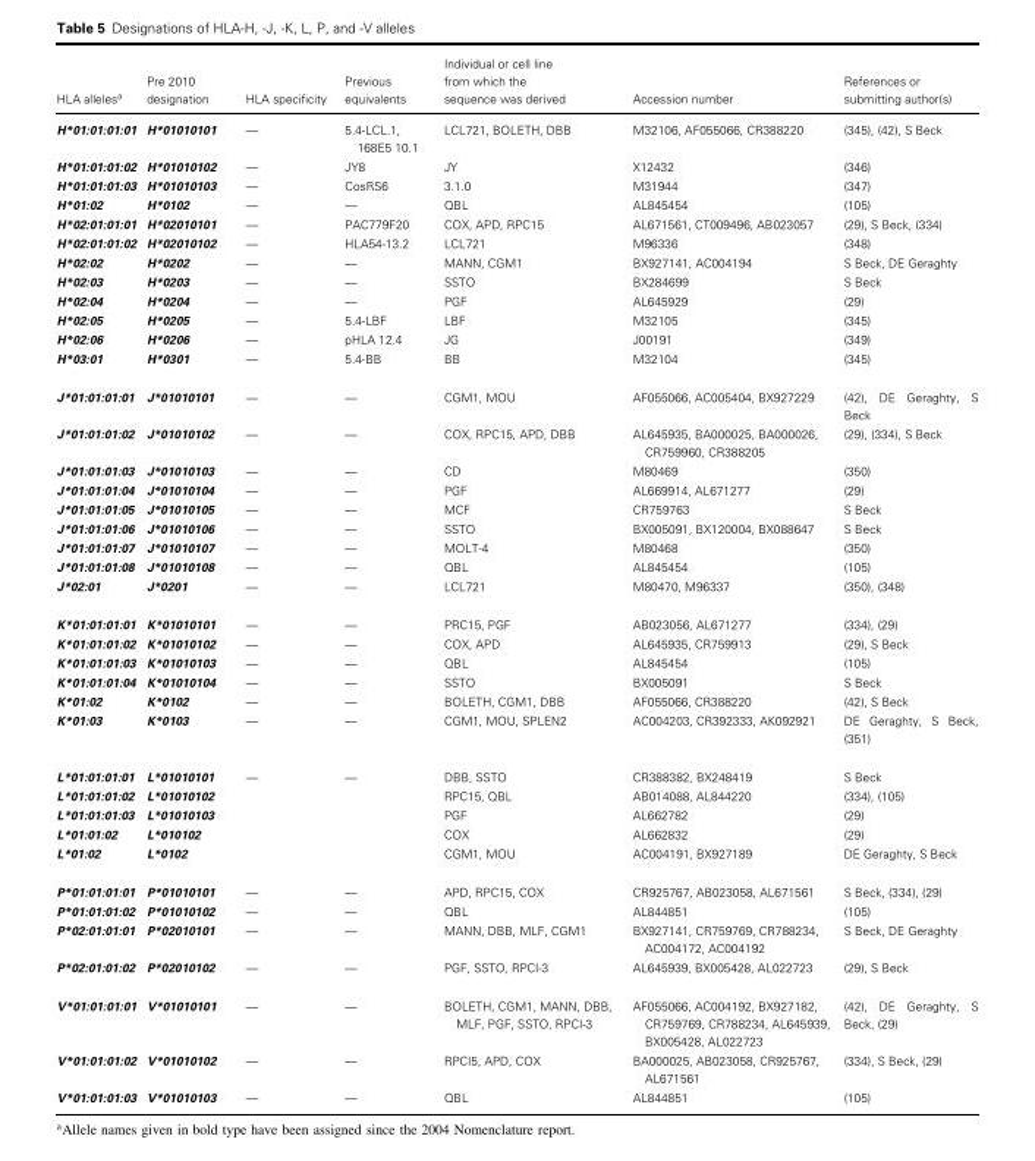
<table><thead><tr><td>HLA allelesa</td><td>Pre 2010 designation</td><td>HLA specificity</td><td>Previous equivalents</td><td>Individual or cell line from which the sequence was derived</td><td>Accession number</td><td>References or submitting author(s)</td></tr></thead><tbody><tr><td>H*01:01:01:01</td><td>H*01010101</td><td>—</td><td>5.4-LCL.1, 168E5 10.1</td><td>LCL721, BOLETH, DBB</td><td>M32106, AF055066, CR388220</td><td>(345), (42), S Beck</td></tr><tr><td>H*01:01:01:02</td><td>H*01010102</td><td>—</td><td>JY8</td><td>JY</td><td>X12432</td><td>(346)</td></tr><tr><td>H*01:01:01:03</td><td>H*01010103</td><td>—</td><td>CosRS6</td><td>3.1.0</td><td>M31944</td><td>(347)</td></tr><tr><td>H*01:02</td><td>H*0102</td><td>—</td><td>—</td><td>QBL</td><td>AL845454</td><td>(105)</td></tr><tr><td>H*02:01:01:01</td><td>H*02010101</td><td>—</td><td>PAC779F20</td><td>COX, APD, RPC15</td><td>AL671561, CT009496, AB023057</td><td>(29), S Beck, (334)</td></tr><tr><td>H*02:01:01:02</td><td>H*02010102</td><td>—</td><td>HLA54-13.2</td><td>LCL721</td><td>M96336</td><td>(348)</td></tr><tr><td>H*02:02</td><td>H*0202</td><td>—</td><td>—</td><td>MANN, CGM1</td><td>BX927141, AC004194</td><td>S Beck, DE Geraghty</td></tr><tr><td>H*02:03</td><td>H*0203</td><td>—</td><td>—</td><td>SSTO</td><td>BX284699</td><td>S Beck</td></tr><tr><td>H*02:04</td><td>H*0204</td><td>—</td><td>—</td><td>PGF</td><td>AL645929</td><td>(29)</td></tr><tr><td>H*02:05</td><td>H*0205</td><td>—</td><td>5.4-LBF</td><td>LBF</td><td>M32105</td><td>(345)</td></tr><tr><td>H*02:06</td><td>H*0206</td><td>—</td><td>pHLA 12.4</td><td>JG</td><td>J00191</td><td>(349)</td></tr><tr><td>H*03:01</td><td>H*0301</td><td>—</td><td>5.4-BB</td><td>BB</td><td>M32104</td><td>(345)</td></tr><tr><td>J*01:01:01:01</td><td>J*01010101</td><td>—</td><td>—</td><td>CGM1, MOU</td><td>AF055066, AC005404, BX927229</td><td>(42), DE Geraghty, S Beck</td></tr><tr><td>J*01:01:01:02</td><td>J*01010102</td><td>—</td><td>—</td><td>COX, RPC15, APD, DBB</td><td>AL645935, BA000025, BA000026, CR759960, CR388205</td><td>(29), (334), S Beck</td></tr><tr><td>J*01:01:01:03</td><td>J*01010103</td><td>—</td><td>—</td><td>CD</td><td>M80469</td><td>(350)</td></tr><tr><td>J*01:01:01:04</td><td>J*01010104</td><td>—</td><td>—</td><td>PGF</td><td>AL669914, AL671277</td><td>(29)</td></tr><tr><td>J*01:01:01:05</td><td>J*01010105</td><td>—</td><td>—</td><td>MCF</td><td>CR759763</td><td>S Beck</td></tr><tr><td>J*01:01:01:06</td><td>J*01010106</td><td>—</td><td>—</td><td>SSTO</td><td>BX005091, BX120004, BX088647</td><td>S Beck</td></tr><tr><td>J*01:01:01:07</td><td>J*01010107</td><td>—</td><td>—</td><td>MOLT-4</td><td>M80468</td><td>(350)</td></tr><tr><td>J*01:01:01:08</td><td>J*01010108</td><td>—</td><td>—</td><td>QBL</td><td>AL845454</td><td>(105)</td></tr><tr><td>J*02:01</td><td>J*0201</td><td>—</td><td>—</td><td>LCL721</td><td>M80470, M96337</td><td>(350), (348)</td></tr><tr><td>K*01:01:01:01</td><td>K*01010101</td><td>—</td><td>—</td><td>PRC15, PGF</td><td>AB023056, AL671277</td><td>(334), (29)</td></tr><tr><td>K*01:01:01:02</td><td>K*01010102</td><td>—</td><td>—</td><td>COX, APD</td><td>AL645935, CR759913</td><td>(29), S Beck</td></tr><tr><td>K*01:01:01:03</td><td>K*01010103</td><td>—</td><td>—</td><td>QBL</td><td>AL845454</td><td>(105)</td></tr><tr><td>K*01:01:01:04</td><td>K*01010104</td><td>—</td><td>—</td><td>SSTO</td><td>BX005091</td><td>S Beck</td></tr><tr><td>K*01:02</td><td>K*0102</td><td>—</td><td>—</td><td>BOLETH, CGM1, DBB</td><td>AF055066, CR388220</td><td>(42), S Beck</td></tr><tr><td>K*01:03</td><td>K*0103</td><td>—</td><td>—</td><td>CGM1, MOU, SPLEN2</td><td>AC004203, CR392333, AK092921</td><td>DE Geraghty, S Beck, (351)</td></tr><tr><td>L*01:01:01:01</td><td>L*01010101</td><td>—</td><td>—</td><td>DBB, SSTO</td><td>CR388382, BX248419</td><td>S Beck</td></tr><tr><td>L*01:01:01:02</td><td>L*01010102</td><td></td><td></td><td>RPC15, QBL</td><td>AB014088, AL844220</td><td>(334), (105)</td></tr><tr><td>L*01:01:01:03</td><td>L*01010103</td><td></td><td></td><td>PGF</td><td>AL662782</td><td>(29)</td></tr><tr><td>L*01:01:02</td><td>L*010102</td><td></td><td></td><td>COX</td><td>AL662832</td><td>(29)</td></tr><tr><td>L*01:02</td><td>L*0102</td><td></td><td></td><td>CGM1, MOU</td><td>AC004191, BX927189</td><td>DE Geraghty, S Beck</td></tr><tr><td>P*01:01:01:01</td><td>P*01010101</td><td>—</td><td>—</td><td>APD, RPC15, COX</td><td>CR925767, AB023058, AL671561</td><td>S Beck, (334), (29)</td></tr><tr><td>P*01:01:01:02</td><td>P*01010102</td><td>—</td><td>—</td><td>QBL</td><td>AL844851</td><td>(105)</td></tr><tr><td>P*02:01:01:01</td><td>P*02010101</td><td>—</td><td>—</td><td>MANN, DBB, MLF, CGM1</td><td>BX927141, CR759769, CR788234, AC004172, AC004192</td><td>S Beck, DE Geraghty</td></tr><tr><td>P*02:01:01:02</td><td>P*02010102</td><td>—</td><td>—</td><td>PGF, SSTO, RPCI-3</td><td>AL645939, BX005428, AL022723</td><td>(29), S Beck</td></tr><tr><td>V*01:01:01:01</td><td>V*01010101</td><td>—</td><td>—</td><td>BOLETH, CGM1, MANN, DBB, MLF, PGF, SSTO, RPCI-3</td><td>AF055066, AC004192, BX927182, CR759769, CR788234, AL645939, BX005428, AL022723</td><td>(42), DE Geraghty, S Beck, (29)</td></tr><tr><td>V*01:01:01:02</td><td>V*01010102</td><td>—</td><td>—</td><td>RPCI5, APD, COX</td><td>BA000025, AB023058, CR925767, AL671561</td><td>(334), S Beck, (29)</td></tr><tr><td>V*01:01:01:03</td><td>V*01010103</td><td>—</td><td>—</td><td>QBL</td><td>AL844851</td><td>(105)</td></tr></tbody></table>